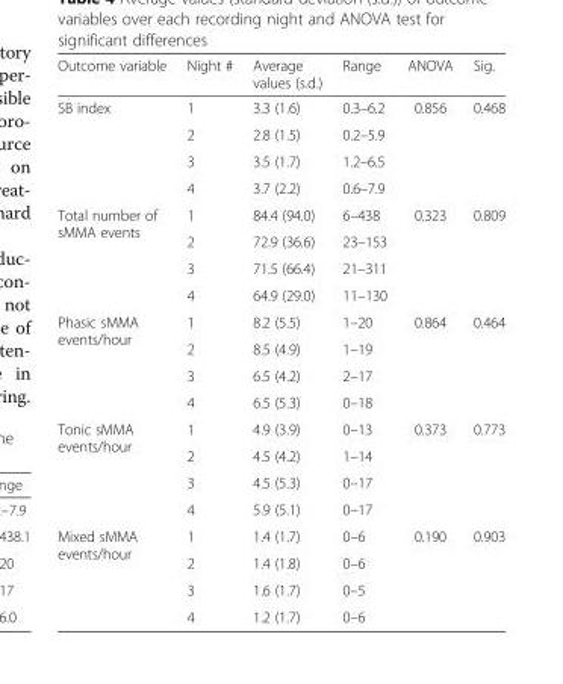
<table><thead><tr><td>Outcome variable</td><td>Night #</td><td>Average values (s.d.)</td><td>Range</td><td>ANOVA</td><td>Sig.</td></tr></thead><tbody><tr><td rowspan="4">SB index</td><td>1</td><td>3.3 (1.6)</td><td>0.3–6.2</td><td rowspan="4">0.856</td><td rowspan="4">0.468</td></tr><tr><td>2</td><td>2.8 (1.5)</td><td>0.2–5.9</td></tr><tr><td>3</td><td>3.5 (1.7)</td><td>1.2–6.5</td></tr><tr><td>4</td><td>3.7 (2.2)</td><td>0.6–7.9</td></tr><tr><td rowspan="4">Total number of sMMA events</td><td>1</td><td>84.4 (94.0)</td><td>6–438</td><td rowspan="4">0.323</td><td rowspan="4">0.809</td></tr><tr><td>2</td><td>72.9 (36.6)</td><td>23–153</td></tr><tr><td>3</td><td>71.5 (66.4)</td><td>21–311</td></tr><tr><td>4</td><td>64.9 (29.0)</td><td>11–130</td></tr><tr><td rowspan="4">Phasic sMMA events/hour</td><td>1</td><td>8.2 (5.5)</td><td>1–20</td><td rowspan="4">0.864</td><td rowspan="4">0.464</td></tr><tr><td>2</td><td>8.5 (4.9)</td><td>1–19</td></tr><tr><td>3</td><td>6.5 (4.2)</td><td>2–17</td></tr><tr><td>4</td><td>6.5 (5.3)</td><td>0–18</td></tr><tr><td rowspan="4">Tonic sMMA events/hour</td><td>1</td><td>4.9 (3.9)</td><td>0–13</td><td rowspan="4">0.373</td><td rowspan="4">0.773</td></tr><tr><td>2</td><td>4.5 (4.2)</td><td>1–14</td></tr><tr><td>3</td><td>4.5 (5.3)</td><td>0–17</td></tr><tr><td>4</td><td>5.9 (5.1)</td><td>0–17</td></tr><tr><td rowspan="4">Mixed sMMA events/hour</td><td>1</td><td>1.4 (1.7)</td><td>0–6</td><td rowspan="4">0.190</td><td rowspan="4">0.903</td></tr><tr><td>2</td><td>1.4 (1.8)</td><td>0–6</td></tr><tr><td>3</td><td>1.6 (1.7)</td><td>0–5</td></tr><tr><td>4</td><td>1.2 (1.7)</td><td>0–6</td></tr></tbody></table>